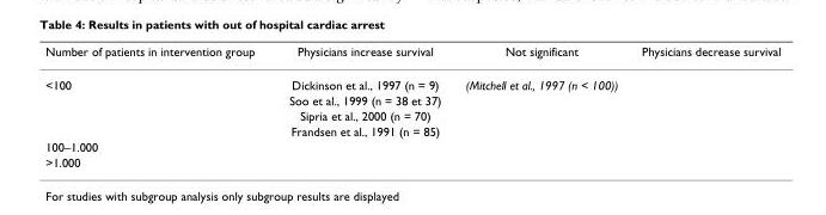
<table><thead><tr><td>Number of patients in intervention group</td><td>Physicians increase survival</td><td>Not significant</td><td>Physicians decrease survival</td></tr></thead><tbody><tr><td rowspan="4">&lt;100</td><td>Dickinson et al., 1997 (n = 9)</td><td>(Mitchell et al., 1997 (n &lt; 100))</td><td></td></tr><tr><td>Soo et al., 1999 (n = 38 et 37)</td><td></td><td></td></tr><tr><td>Sipria et al., 2000 (n = 70)</td><td></td><td></td></tr><tr><td>Frandsen et al., 1991 (n = 85)</td><td></td><td></td></tr><tr><td colspan="4">100–1.000</td></tr><tr><td>&gt;1.000</td><td></td><td></td><td></td></tr></tbody></table>